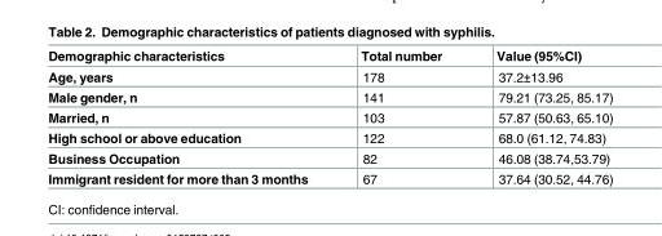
<table><thead><tr><td>Demographic characteristics</td><td>Total number</td><td>Value (95%CI)</td></tr></thead><tbody><tr><td>Age, years</td><td>178</td><td>37.2±13.96</td></tr><tr><td>Male gender, n</td><td>141</td><td>79.21 (73.25, 85.17)</td></tr><tr><td>Married, n</td><td>103</td><td>57.87 (50.63, 65.10)</td></tr><tr><td>High school or above education</td><td>122</td><td>68.0 (61.12, 74.83)</td></tr><tr><td>Business Occupation</td><td>82</td><td>46.08 (38.74,53.79)</td></tr><tr><td>Immigrant resident for more than 3 months</td><td>67</td><td>37.64 (30.52, 44.76)</td></tr></tbody></table>